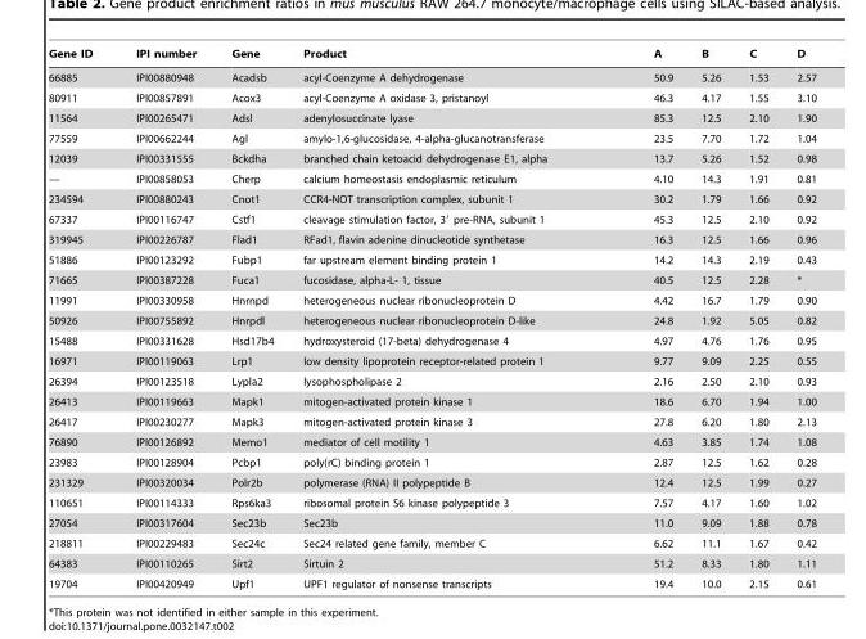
<table><thead><tr><td>Gene ID</td><td>IPI number</td><td>Gene</td><td>Product</td><td>A</td><td>B</td><td>C</td><td>D</td></tr></thead><tbody><tr><td>66885</td><td>IPI00880948</td><td>Acadsb</td><td>acyl-Coenzyme A dehydrogenase</td><td>50.9</td><td>5.26</td><td>1.53</td><td>2.57</td></tr><tr><td>80911</td><td>IPI00857891</td><td>Acox3</td><td>acyl-Coenzyme A oxidase 3, pristanoyl</td><td>46.3</td><td>4.17</td><td>1.55</td><td>3.10</td></tr><tr><td>11564</td><td>IPI00265471</td><td>Adsl</td><td>adenylosuccinate lyase</td><td>85.3</td><td>12.5</td><td>2.10</td><td>1.90</td></tr><tr><td>77559</td><td>IPI00662244</td><td>Agl</td><td>amylo-1,6-glucosidase, 4-alpha-glucanotransferase</td><td>23.5</td><td>7.70</td><td>1.72</td><td>1.04</td></tr><tr><td>12039</td><td>IPI00331555</td><td>Bckdha</td><td>branched chain ketoacid dehydrogenase E1, alpha</td><td>13.7</td><td>5.26</td><td>1.52</td><td>0.98</td></tr><tr><td>—</td><td>IPI00858053</td><td>Cherp</td><td>calcium homeostasis endoplasmic reticulum</td><td>4.10</td><td>14.3</td><td>1.91</td><td>0.81</td></tr><tr><td>234594</td><td>IPI00880243</td><td>Cnot1</td><td>CCR4-NOT transcription complex, subunit 1</td><td>30.2</td><td>1.79</td><td>1.66</td><td>0.92</td></tr><tr><td>67337</td><td>IPI00116747</td><td>Cstf1</td><td>cleavage stimulation factor, 3′ pre-RNA, subunit 1</td><td>45.3</td><td>12.5</td><td>2.10</td><td>0.92</td></tr><tr><td>319945</td><td>IPI00226787</td><td>Flad1</td><td>RFad1, flavin adenine dinucleotide synthetase</td><td>16.3</td><td>12.5</td><td>1.66</td><td>0.96</td></tr><tr><td>51886</td><td>IPI00123292</td><td>Fubp1</td><td>far upstream element binding protein 1</td><td>14.2</td><td>14.3</td><td>2.19</td><td>0.43</td></tr><tr><td>71665</td><td>IPI00387228</td><td>Fuca1</td><td>fucosidase, alpha-L- 1, tissue</td><td>40.5</td><td>12.5</td><td>2.28</td><td>*</td></tr><tr><td>11991</td><td>IPI00330958</td><td>Hnrnpd</td><td>heterogeneous nuclear ribonucleoprotein D</td><td>4.42</td><td>16.7</td><td>1.79</td><td>0.90</td></tr><tr><td>50926</td><td>IPI00755892</td><td>Hnrpdl</td><td>heterogeneous nuclear ribonucleoprotein D-like</td><td>24.8</td><td>1.92</td><td>5.05</td><td>0.82</td></tr><tr><td>15488</td><td>IPI00331628</td><td>Hsd17b4</td><td>hydroxysteroid (17-beta) dehydrogenase 4</td><td>4.97</td><td>4.76</td><td>1.76</td><td>0.95</td></tr><tr><td>16971</td><td>IPI00119063</td><td>Lrp1</td><td>low density lipoprotein receptor-related protein 1</td><td>9.77</td><td>9.09</td><td>2.25</td><td>0.55</td></tr><tr><td>26394</td><td>IPI00123518</td><td>Lypla2</td><td>lysophospholipase 2</td><td>2.16</td><td>2.50</td><td>2.10</td><td>0.93</td></tr><tr><td>26413</td><td>IPI00119663</td><td>Mapk1</td><td>mitogen-activated protein kinase 1</td><td>18.6</td><td>6.70</td><td>1.94</td><td>1.00</td></tr><tr><td>26417</td><td>IPI00230277</td><td>Mapk3</td><td>mitogen-activated protein kinase 3</td><td>27.8</td><td>6.20</td><td>1.80</td><td>2.13</td></tr><tr><td>76890</td><td>IPI00126892</td><td>Memo1</td><td>mediator of cell motility 1</td><td>4.63</td><td>3.85</td><td>1.74</td><td>1.08</td></tr><tr><td>23983</td><td>IPI00128904</td><td>Pcbp1</td><td>poly(rC) binding protein 1</td><td>2.87</td><td>12.5</td><td>1.62</td><td>0.28</td></tr><tr><td>231329</td><td>IPI00320034</td><td>Polr2b</td><td>polymerase (RNA) II polypeptide B</td><td>12.4</td><td>12.5</td><td>1.99</td><td>0.27</td></tr><tr><td>110651</td><td>IPI00114333</td><td>Rps6ka3</td><td>ribosomal protein S6 kinase polypeptide 3</td><td>7.57</td><td>4.17</td><td>1.60</td><td>1.02</td></tr><tr><td>27054</td><td>IPI00317604</td><td>Sec23b</td><td>Sec23b</td><td>11.0</td><td>9.09</td><td>1.88</td><td>0.78</td></tr><tr><td>218811</td><td>IPI00229483</td><td>Sec24c</td><td>Sec24 related gene family, member C</td><td>6.62</td><td>11.1</td><td>1.67</td><td>0.42</td></tr><tr><td>64383</td><td>IPI00110265</td><td>Sirt2</td><td>Sirtuin 2</td><td>51.2</td><td>8.33</td><td>1.80</td><td>1.11</td></tr><tr><td>19704</td><td>IPI00420949</td><td>Upf1</td><td>UPF1 regulator of nonsense transcripts</td><td>19.4</td><td>10.0</td><td>2.15</td><td>0.61</td></tr></tbody></table>